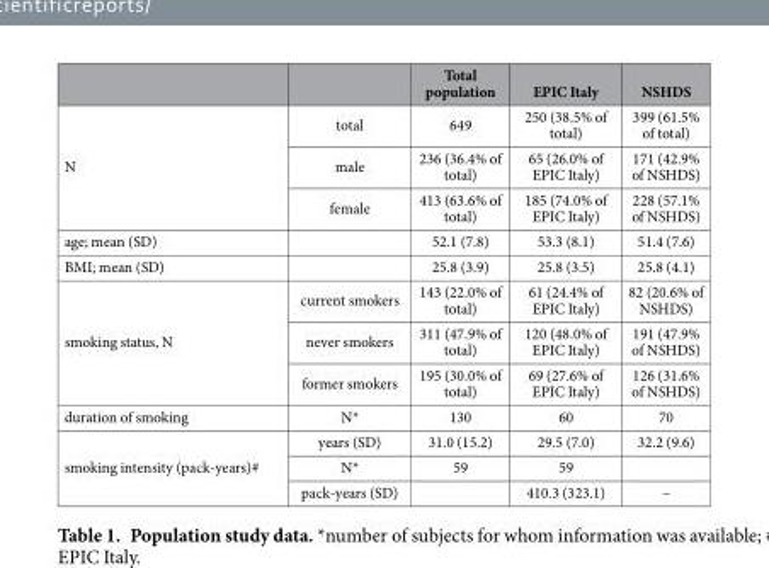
<table><thead><tr><td></td><td></td><td>Total population</td><td>EPIC Italy</td><td>NSHDS</td></tr></thead><tbody><tr><td rowspan="3">N</td><td>total</td><td>649</td><td>250 (38.5% of total)</td><td>399 (61.5% of total)</td></tr><tr><td>male</td><td>236 (36.4% of total)</td><td>65 (26.0% of EPIC Italy)</td><td>171 (42.9% of NSHDS)</td></tr><tr><td>female</td><td>413 (63.6% of total)</td><td>185 (74.0% of EPIC Italy)</td><td>228 (57.1% of NSHDS)</td></tr><tr><td>age; mean (SD)</td><td></td><td>52.1 (7.8)</td><td>53.3 (8.1)</td><td>51.4 (7.6)</td></tr><tr><td>BMI; mean (SD)</td><td></td><td>25.8 (3.9)</td><td>25.8 (3.5)</td><td>25.8 (4.1)</td></tr><tr><td rowspan="3">smoking status, N</td><td>current smokers</td><td>143 (22.0% of total)</td><td>61 (24.4% of EPIC Italy)</td><td>82 (20.6% of NSHDS)</td></tr><tr><td>never smokers</td><td>311 (47.9% of total)</td><td>120 (48.0% of EPIC Italy)</td><td>191 (47.9% of NSHDS)</td></tr><tr><td>former smokers</td><td>195 (30.0% of total)</td><td>69 (27.6% of EPIC Italy)</td><td>126 (31.6% of NSHDS)</td></tr><tr><td>duration of smoking</td><td>N*</td><td>130</td><td>60</td><td>70</td></tr><tr><td rowspan="3">smoking intensity (pack-years)#</td><td>years (SD)</td><td>31.0 (15.2)</td><td>29.5 (7.0)</td><td>32.2 (9.6)</td></tr><tr><td>N*</td><td>59</td><td>59</td><td></td></tr><tr><td>pack-years (SD)</td><td></td><td>410.3 (323.1)</td><td>–</td></tr></tbody></table>